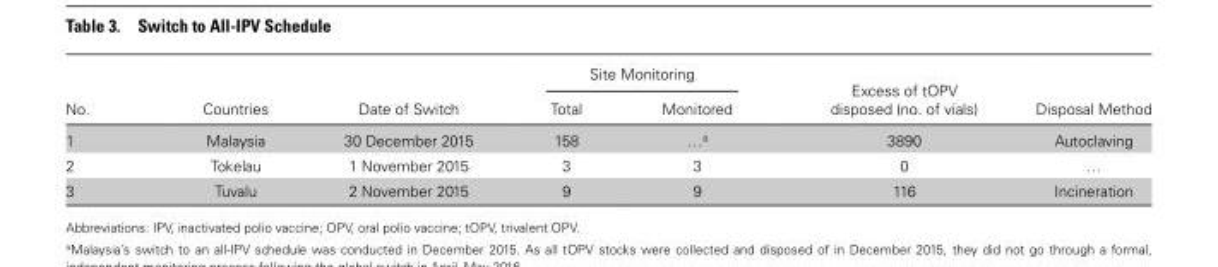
<table><thead><tr><td rowspan="2">No.</td><td rowspan="2">Countries</td><td rowspan="2">Date of Switch</td><td colspan="2">Site Monitoring</td><td rowspan="2">Excess of tOPV disposed (no. of vials)</td><td rowspan="2">Disposal Method</td></tr><tr><td>Total</td><td>Monitored</td></tr></thead><tbody><tr><td>1</td><td>Malaysia</td><td>30 December 2015</td><td>158</td><td>…<sup>a</sup></td><td>3890</td><td>Autoclaving</td></tr><tr><td>2</td><td>Tokelau</td><td>1 November 2015</td><td>3</td><td>3</td><td>0</td><td>…</td></tr><tr><td>3</td><td>Tuvalu</td><td>2 November 2015</td><td>9</td><td>9</td><td>116</td><td>Incineration</td></tr></tbody></table>